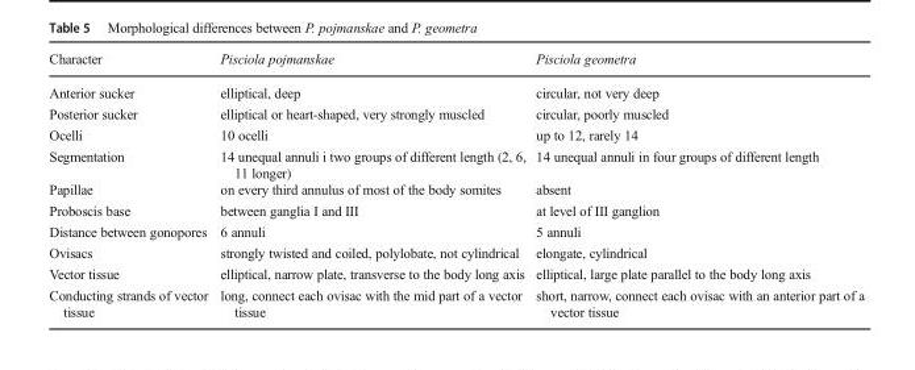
<table><thead><tr><td>Character</td><td>Pisciola pojmanskae</td><td>Pisciola geometra</td></tr></thead><tbody><tr><td>Anterior sucker</td><td>elliptical, deep</td><td>circular, not very deep</td></tr><tr><td>Posterior sucker</td><td>elliptical or heart-shaped, very strongly muscled</td><td>circular, poorly muscled</td></tr><tr><td>Ocelli</td><td>10 ocelli</td><td>up to 12, rarely 14</td></tr><tr><td>Segmentation</td><td>14 unequal annuli i two groups of different length (2, 6, 11 longer)</td><td>14 unequal annuli in four groups of different length</td></tr><tr><td>Papillae</td><td>on every third annulus of most of the body somites</td><td>absent</td></tr><tr><td>Proboscis base</td><td>between ganglia I and III</td><td>at level of III ganglion</td></tr><tr><td>Distance between gonopores</td><td>6 annuli</td><td>5 annuli</td></tr><tr><td>Ovisacs</td><td>strongly twisted and coiled, polylobate, not cylindrical</td><td>elongate, cylindrical</td></tr><tr><td>Vector tissue</td><td>elliptical, narrow plate, transverse to the body long axis</td><td>elliptical, large plate parallel to the body long axis</td></tr><tr><td>Conducting strands of vector tissue</td><td>long, connect each ovisac with the mid part of a vector tissue</td><td>short, narrow, connect each ovisac with an anterior part of a vector tissue</td></tr></tbody></table>